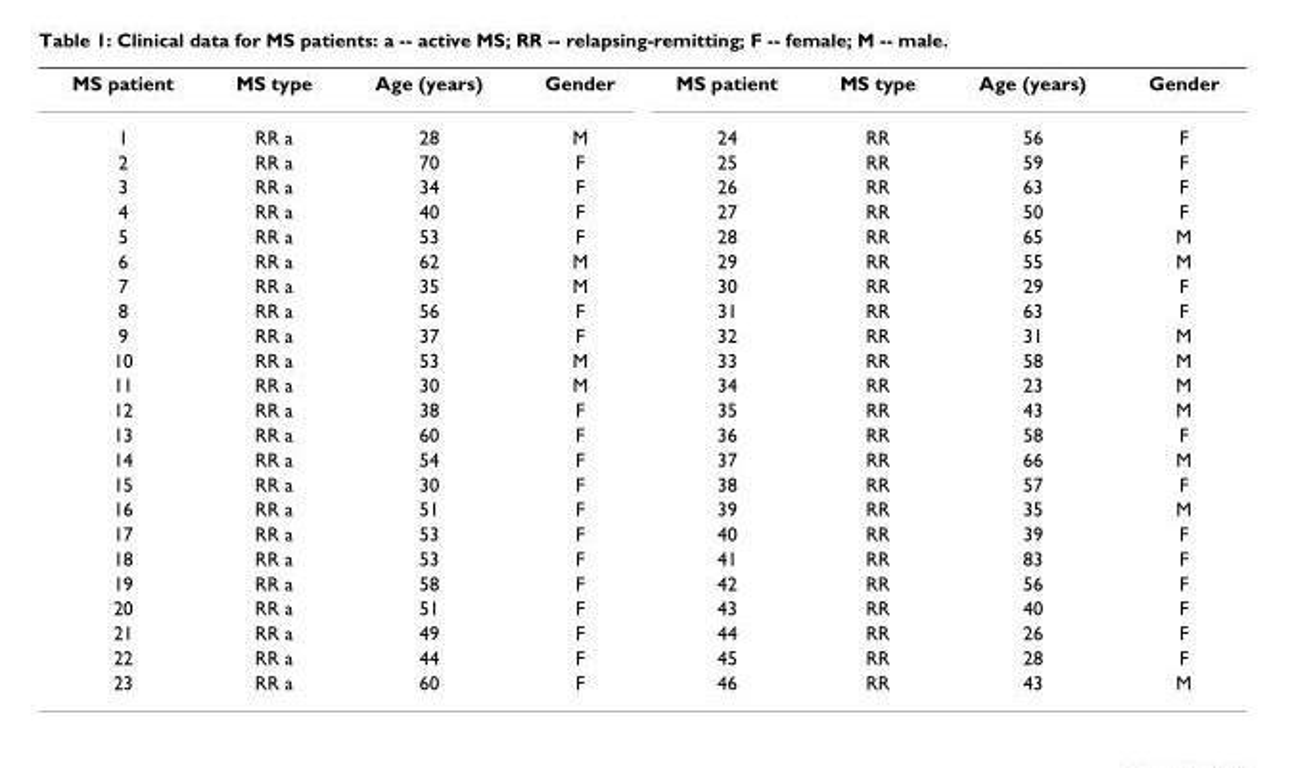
<table><tbody><tr><td>MS patient</td><td>MS type</td><td>Age (years)</td><td>Gender</td><td>MS patient</td><td>MS type</td><td>Age (years)</td><td>Gender</td></tr><tr><td>1</td><td>RR a</td><td>28</td><td>M</td><td>24</td><td>RR</td><td>56</td><td>F</td></tr><tr><td>2</td><td>RR a</td><td>70</td><td>F</td><td>25</td><td>RR</td><td>59</td><td>F</td></tr><tr><td>3</td><td>RR a</td><td>34</td><td>F</td><td>26</td><td>RR</td><td>63</td><td>F</td></tr><tr><td>4</td><td>RR a</td><td>40</td><td>F</td><td>27</td><td>RR</td><td>50</td><td>F</td></tr><tr><td>5</td><td>RR a</td><td>53</td><td>F</td><td>28</td><td>RR</td><td>65</td><td>M</td></tr><tr><td>6</td><td>RR a</td><td>62</td><td>M</td><td>29</td><td>RR</td><td>55</td><td>M</td></tr><tr><td>7</td><td>RR a</td><td>35</td><td>M</td><td>30</td><td>RR</td><td>29</td><td>F</td></tr><tr><td>8</td><td>RR a</td><td>56</td><td>F</td><td>31</td><td>RR</td><td>63</td><td>F</td></tr><tr><td>9</td><td>RR a</td><td>37</td><td>F</td><td>32</td><td>RR</td><td>31</td><td>M</td></tr><tr><td>10</td><td>RR a</td><td>53</td><td>M</td><td>33</td><td>RR</td><td>58</td><td>M</td></tr><tr><td>11</td><td>RR a</td><td>30</td><td>M</td><td>34</td><td>RR</td><td>23</td><td>M</td></tr><tr><td>12</td><td>RR a</td><td>38</td><td>F</td><td>35</td><td>RR</td><td>43</td><td>M</td></tr><tr><td>13</td><td>RR a</td><td>60</td><td>F</td><td>36</td><td>RR</td><td>58</td><td>F</td></tr><tr><td>14</td><td>RR a</td><td>54</td><td>F</td><td>37</td><td>RR</td><td>66</td><td>M</td></tr><tr><td>15</td><td>RR a</td><td>30</td><td>F</td><td>38</td><td>RR</td><td>57</td><td>F</td></tr><tr><td>16</td><td>RR a</td><td>51</td><td>F</td><td>39</td><td>RR</td><td>35</td><td>M</td></tr><tr><td>17</td><td>RR a</td><td>53</td><td>F</td><td>40</td><td>RR</td><td>39</td><td>F</td></tr><tr><td>18</td><td>RR a</td><td>53</td><td>F</td><td>41</td><td>RR</td><td>83</td><td>F</td></tr><tr><td>19</td><td>RR a</td><td>58</td><td>F</td><td>42</td><td>RR</td><td>56</td><td>F</td></tr><tr><td>20</td><td>RR a</td><td>51</td><td>F</td><td>43</td><td>RR</td><td>40</td><td>F</td></tr><tr><td>21</td><td>RR a</td><td>49</td><td>F</td><td>44</td><td>RR</td><td>26</td><td>F</td></tr><tr><td>22</td><td>RR a</td><td>44</td><td>F</td><td>45</td><td>RR</td><td>28</td><td>F</td></tr><tr><td>23</td><td>RR a</td><td>60</td><td>F</td><td>46</td><td>RR</td><td>43</td><td>M</td></tr></tbody></table>